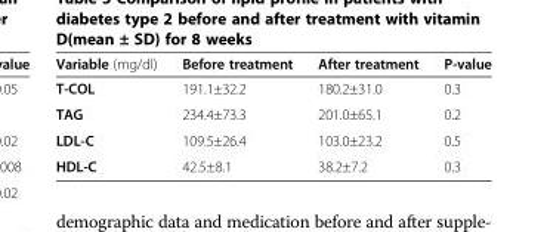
<table><thead><tr><td>Variable (mg/dl)</td><td>Before treatment</td><td>After treatment</td><td>P-value</td></tr></thead><tbody><tr><td>T-COL</td><td>191.1±32.2</td><td>180.2±31.0</td><td>0.3</td></tr><tr><td>TAG</td><td>234.4±73.3</td><td>201.0±65.1</td><td>0.2</td></tr><tr><td>LDL-C</td><td>109.5±26.4</td><td>103.0±23.2</td><td>0.5</td></tr><tr><td>HDL-C</td><td>42.5±8.1</td><td>38.2±7.2</td><td>0.3</td></tr></tbody></table>